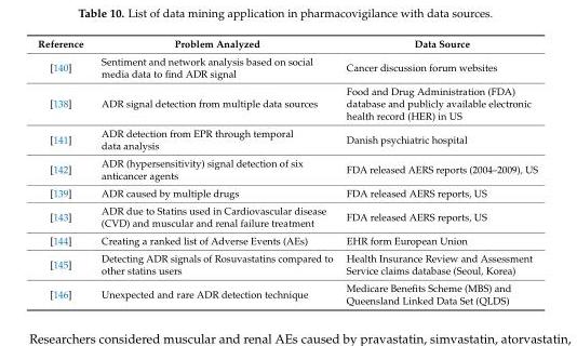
<table><thead><tr><td>Reference</td><td>Problem Analyzed</td><td>Data Source</td></tr></thead><tbody><tr><td>[140]</td><td>Sentiment and network analysis based on social media data to find ADR signal</td><td>Cancer discussion forum websites</td></tr><tr><td>[138]</td><td>ADR signal detection from multiple data sources</td><td>Food and Drug Administration (FDA) database and publicly available electronic health record (HER) in US</td></tr><tr><td>[141]</td><td>ADR detection from EPR through temporal data analysis</td><td>Danish psychiatric hospital</td></tr><tr><td>[142]</td><td>ADR (hypersensitivity) signal detection of six anticancer agents</td><td>FDA released AERS reports (2004–2009), US</td></tr><tr><td>[139]</td><td>ADR caused by multiple drugs</td><td>FDA released AERS reports, US</td></tr><tr><td>[143]</td><td>ADR due to Statins used in Cardiovascular disease (CVD) and muscular and renal failure treatment</td><td>FDA released AERS reports, US</td></tr><tr><td>[144]</td><td>Creating a ranked list of Adverse Events (AEs)</td><td>EHR form European Union</td></tr><tr><td>[145]</td><td>Detecting ADR signals of Rosuvastatins compared to other statins users</td><td>Health Insurance Review and Assessment Service claims database (Seoul, Korea)</td></tr><tr><td>[146]</td><td>Unexpected and rare ADR detection technique</td><td>Medicare Benefits Scheme (MBS) and Queensland Linked Data Set (QLDS)</td></tr></tbody></table>